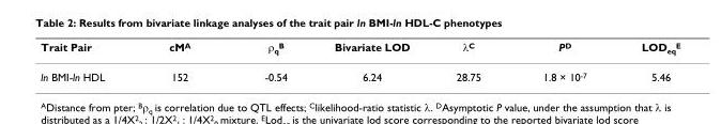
<table><thead><tr><td>Trait Pair</td><td>cMA</td><td>ρqB</td><td>Bivariate LOD</td><td>λC</td><td>PD</td><td>LODeqE</td></tr></thead><tbody><tr><td>ln BMI-ln HDL</td><td>152</td><td>-0.54</td><td>6.24</td><td>28.75</td><td>1.8 × 10-7</td><td>5.46</td></tr></tbody></table>